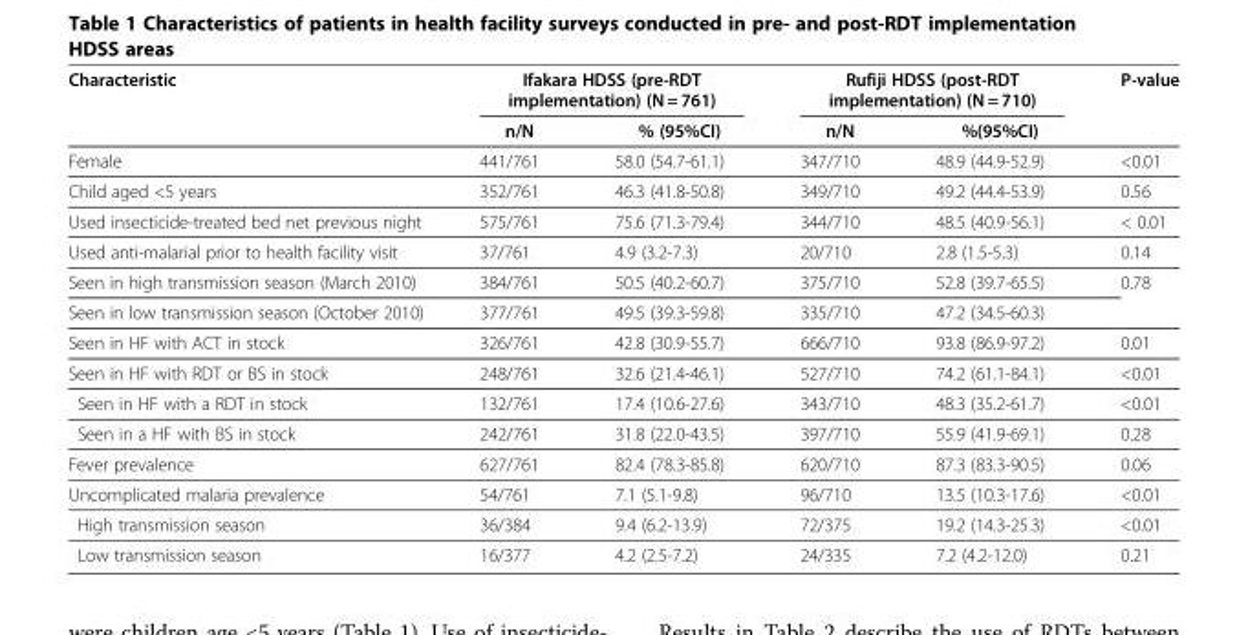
<table><thead><tr><td rowspan="2">Characteristic</td><td colspan="2">Ifakara HDSS (pre-RDT implementation) (N = 761)</td><td colspan="2">Rufiji HDSS (post-RDT implementation) (N = 710)</td><td rowspan="2">P-value</td></tr><tr><td>n/N</td><td>% (95%CI)</td><td>n/N</td><td>%(95%CI)</td></tr></thead><tbody><tr><td>Female</td><td>441/761</td><td>58.0 (54.7-61.1)</td><td>347/710</td><td>48.9 (44.9-52.9)</td><td>&lt;0.01</td></tr><tr><td>Child aged &lt;5 years</td><td>352/761</td><td>46.3 (41.8-50.8)</td><td>349/710</td><td>49.2 (44.4-53.9)</td><td>0.56</td></tr><tr><td>Used insecticide-treated bed net previous night</td><td>575/761</td><td>75.6 (71.3-79.4)</td><td>344/710</td><td>48.5 (40.9-56.1)</td><td>&lt; 0.01</td></tr><tr><td>Used anti-malarial prior to health facility visit</td><td>37/761</td><td>4.9 (3.2-7.3)</td><td>20/710</td><td>2.8 (1.5-5.3)</td><td>0.14</td></tr><tr><td>Seen in high transmission season (March 2010)</td><td>384/761</td><td>50.5 (40.2-60.7)</td><td>375/710</td><td>52.8 (39.7-65.5)</td><td>0.78</td></tr><tr><td>Seen in low transmission season (October 2010)</td><td>377/761</td><td>49.5 (39.3-59.8)</td><td>335/710</td><td>47.2 (34.5-60.3)</td><td></td></tr><tr><td>Seen in HF with ACT in stock</td><td>326/761</td><td>42.8 (30.9-55.7)</td><td>666/710</td><td>93.8 (86.9-97.2)</td><td>0.01</td></tr><tr><td>Seen in HF with RDT or BS in stock</td><td>248/761</td><td>32.6 (21.4-46.1)</td><td>527/710</td><td>74.2 (61.1-84.1)</td><td>&lt;0.01</td></tr><tr><td>Seen in HF with a RDT in stock</td><td>132/761</td><td>17.4 (10.6-27.6)</td><td>343/710</td><td>48.3 (35.2-61.7)</td><td>&lt;0.01</td></tr><tr><td>Seen in a HF with BS in stock</td><td>242/761</td><td>31.8 (22.0-43.5)</td><td>397/710</td><td>55.9 (41.9-69.1)</td><td>0.28</td></tr><tr><td>Fever prevalence</td><td>627/761</td><td>82.4 (78.3-85.8)</td><td>620/710</td><td>87.3 (83.3-90.5)</td><td>0.06</td></tr><tr><td>Uncomplicated malaria prevalence</td><td>54/761</td><td>7.1 (5.1-9.8)</td><td>96/710</td><td>13.5 (10.3-17.6)</td><td>&lt;0.01</td></tr><tr><td>High transmission season</td><td>36/384</td><td>9.4 (6.2-13.9)</td><td>72/375</td><td>19.2 (14.3-25.3)</td><td>&lt;0.01</td></tr><tr><td>Low transmission season</td><td>16/377</td><td>4.2 (2.5-7.2)</td><td>24/335</td><td>7.2 (4.2-12.0)</td><td>0.21</td></tr></tbody></table>